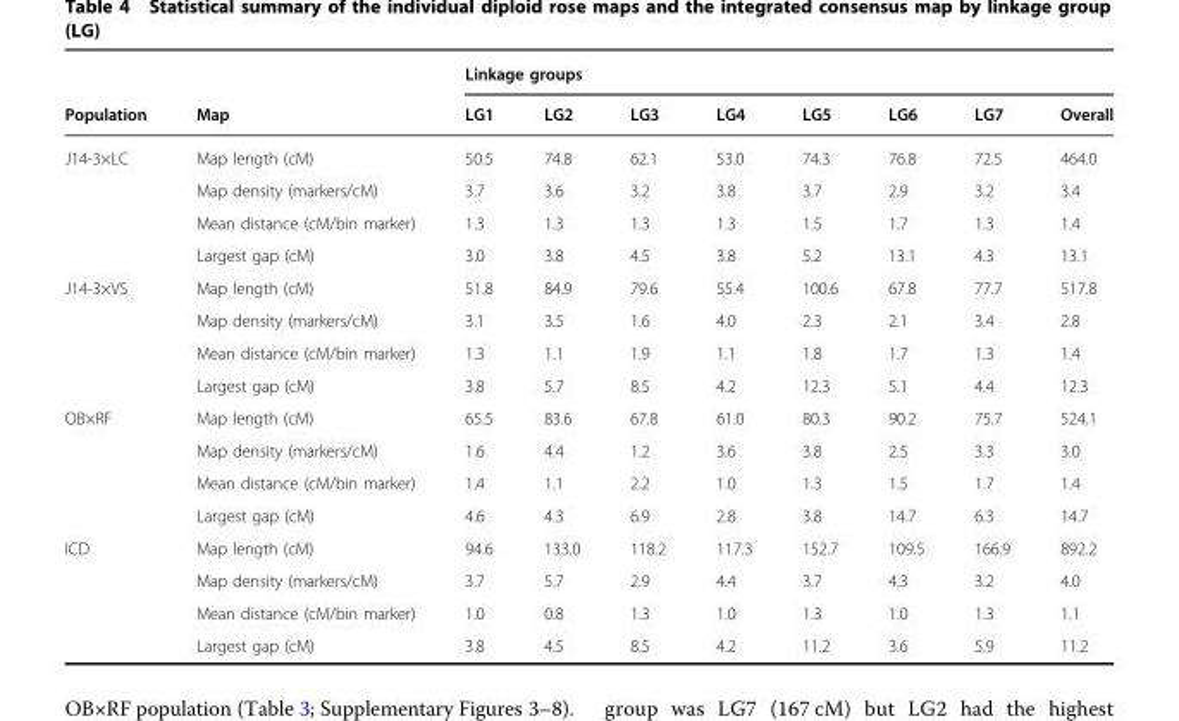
<table><thead><tr><td rowspan="2">Population</td><td rowspan="2">Map</td><td colspan="8">Linkage groups</td></tr><tr><td>LG1</td><td>LG2</td><td>LG3</td><td>LG4</td><td>LG5</td><td>LG6</td><td>LG7</td><td>Overall</td></tr></thead><tbody><tr><td rowspan="4">J14-3×LC</td><td>Map length (cM)</td><td>50.5</td><td>74.8</td><td>62.1</td><td>53.0</td><td>74.3</td><td>76.8</td><td>72.5</td><td>464.0</td></tr><tr><td>Map density (markers/cM)</td><td>3.7</td><td>3.6</td><td>3.2</td><td>3.8</td><td>3.7</td><td>2.9</td><td>3.2</td><td>3.4</td></tr><tr><td>Mean distance (cM/bin marker)</td><td>1.3</td><td>1.3</td><td>1.3</td><td>1.3</td><td>1.5</td><td>1.7</td><td>1.3</td><td>1.4</td></tr><tr><td>Largest gap (cM)</td><td>3.0</td><td>3.8</td><td>4.5</td><td>3.8</td><td>5.2</td><td>13.1</td><td>4.3</td><td>13.1</td></tr><tr><td rowspan="4">J14-3×VS</td><td>Map length (cM)</td><td>51.8</td><td>84.9</td><td>79.6</td><td>55.4</td><td>100.6</td><td>67.8</td><td>77.7</td><td>517.8</td></tr><tr><td>Map density (markers/cM)</td><td>3.1</td><td>3.5</td><td>1.6</td><td>4.0</td><td>2.3</td><td>2.1</td><td>3.4</td><td>2.8</td></tr><tr><td>Mean distance (cM/bin marker)</td><td>1.3</td><td>1.1</td><td>1.9</td><td>1.1</td><td>1.8</td><td>1.7</td><td>1.3</td><td>1.4</td></tr><tr><td>Largest gap (cM)</td><td>3.8</td><td>5.7</td><td>8.5</td><td>4.2</td><td>12.3</td><td>5.1</td><td>4.4</td><td>12.3</td></tr><tr><td rowspan="4">OB×RF</td><td>Map length (cM)</td><td>65.5</td><td>83.6</td><td>67.8</td><td>61.0</td><td>80.3</td><td>90.2</td><td>75.7</td><td>524.1</td></tr><tr><td>Map density (markers/cM)</td><td>1.6</td><td>4.4</td><td>1.2</td><td>3.6</td><td>3.8</td><td>2.5</td><td>3.3</td><td>3.0</td></tr><tr><td>Mean distance (cM/bin marker)</td><td>1.4</td><td>1.1</td><td>2.2</td><td>1.0</td><td>1.3</td><td>1.5</td><td>1.7</td><td>1.4</td></tr><tr><td>Largest gap (cM)</td><td>4.6</td><td>4.3</td><td>6.9</td><td>2.8</td><td>3.8</td><td>14.7</td><td>6.3</td><td>14.7</td></tr><tr><td rowspan="4">ICD</td><td>Map length (cM)</td><td>94.6</td><td>133.0</td><td>118.2</td><td>117.3</td><td>152.7</td><td>109.5</td><td>166.9</td><td>892.2</td></tr><tr><td>Map density (markers/cM)</td><td>3.7</td><td>5.7</td><td>2.9</td><td>4.4</td><td>3.7</td><td>4.3</td><td>3.2</td><td>4.0</td></tr><tr><td>Mean distance (cM/bin marker)</td><td>1.0</td><td>0.8</td><td>1.3</td><td>1.0</td><td>1.3</td><td>1.0</td><td>1.3</td><td>1.1</td></tr><tr><td>Largest gap (cM)</td><td>3.8</td><td>4.5</td><td>8.5</td><td>4.2</td><td>11.2</td><td>3.6</td><td>5.9</td><td>11.2</td></tr></tbody></table>